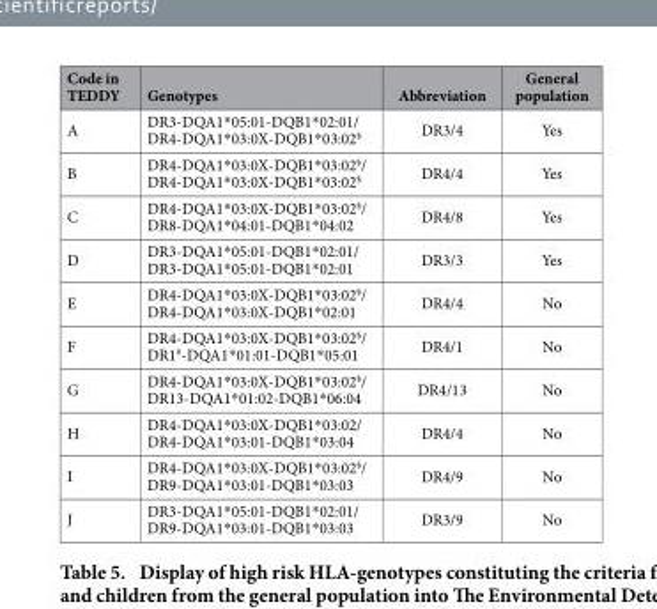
<table><thead><tr><td>Code in TEDDY</td><td>Genotypes</td><td>Abbreviation</td><td>General population</td></tr></thead><tbody><tr><td>A</td><td>DR3-DQA1* 05:01-DQB1* 02:01/ DR4-DQA1* 03:0X-DQB1* 03:02<sup>§</sup></td><td>DR3/4</td><td>Yes</td></tr><tr><td>B</td><td>DR4-DQA1* 03:0X-DQB1* 03:02<sup>§</sup>/ DR4-DQA1* 03:0X-DQB1* 03:02<sup>§</sup></td><td>DR4/4</td><td>Yes</td></tr><tr><td>C</td><td>DR4-DQA1* 03:0X-DQB1* 03:02<sup>§</sup>/ DR8-DQA1* 04:01-DQB1* 04:02</td><td>DR4/8</td><td>Yes</td></tr><tr><td>D</td><td>DR3-DQA1* 05:01-DQB1* 02:01/ DR3-DQA1* 05:01-DQB1* 02:01</td><td>DR3/3</td><td>Yes</td></tr><tr><td>E</td><td>DR4-DQA1* 03:0X-DQB1* 03:02<sup>§</sup>/ DR4-DQA1* 03:0X-DQB1* 02:01</td><td>DR4/4</td><td>No</td></tr><tr><td>F</td><td>DR4-DQA1* 03:0X-DQB1* 03:02<sup>§</sup>/ DR1<sup>#</sup>-DQA1* 01:01-DQB1* 05:01</td><td>DR4/1</td><td>No</td></tr><tr><td>G</td><td>DR4-DQA1* 03:0X-DQB1* 03:02<sup>§</sup>/ DR13-DQA1* 01:02-DQB1* 06:04</td><td>DR4/13</td><td>No</td></tr><tr><td>H</td><td>DR4-DQA1* 03:0X-DQB1* 03:02/ DR4-DQA1* 03:01-DQB1* 03:04</td><td>DR4/4</td><td>No</td></tr><tr><td>I</td><td>DR4-DQA1* 03:0X-DQB1* 03:02<sup>§</sup>/ DR9-DQA1* 03:01-DQB1* 03:03</td><td>DR4/9</td><td>No</td></tr><tr><td>J</td><td>DR3-DQA1* 05:01-DQB1* 02:01/ DR9-DQA1* 03:01-DQB1* 03:03</td><td>DR3/9</td><td>No</td></tr></tbody></table>